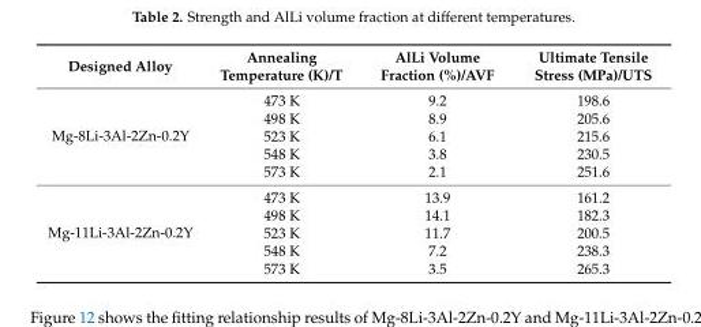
<table><thead><tr><td>Designed Alloy</td><td>Annealing Temperature (K)/T</td><td>AlLi Volume Fraction (%)/AVF</td><td>Ultimate Tensile Stress (MPa)/UTS</td></tr></thead><tbody><tr><td rowspan="5">Mg-8Li-3Al-2Zn-0.2Y</td><td>473 K</td><td>9.2</td><td>198.6</td></tr><tr><td>498 K</td><td>8.9</td><td>205.6</td></tr><tr><td>523 K</td><td>6.1</td><td>215.6</td></tr><tr><td>548 K</td><td>3.8</td><td>230.5</td></tr><tr><td>573 K</td><td>2.1</td><td>251.6</td></tr><tr><td rowspan="5">Mg-11Li-3Al-2Zn-0.2Y</td><td>473 K</td><td>13.9</td><td>161.2</td></tr><tr><td>498 K</td><td>14.1</td><td>182.3</td></tr><tr><td>523 K</td><td>11.7</td><td>200.5</td></tr><tr><td>548 K</td><td>7.2</td><td>238.3</td></tr><tr><td>573 K</td><td>3.5</td><td>265.3</td></tr></tbody></table>